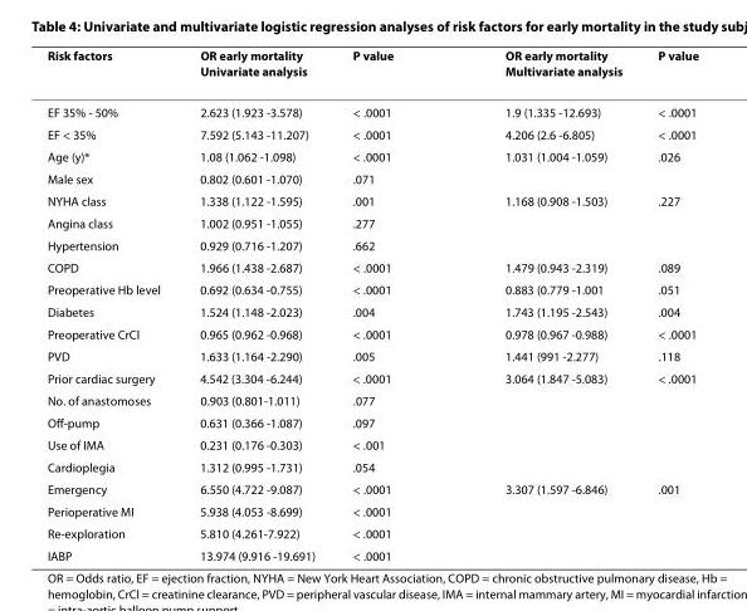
<table><thead><tr><td>Risk factors</td><td>OR early mortality Univariate analysis</td><td>P value</td><td>OR early mortality Multivariate analysis</td><td>P value</td></tr></thead><tbody><tr><td>EF 35% - 50%</td><td>2.623 (1.923 -3.578)</td><td>&lt; .0001</td><td>1.9 (1.335 -12.693)</td><td>&lt; .0001</td></tr><tr><td>EF &lt; 35%</td><td>7.592 (5.143 -11.207)</td><td>&lt; .0001</td><td>4.206 (2.6 -6.805)</td><td>&lt; .0001</td></tr><tr><td>Age (y)*</td><td>1.08 (1.062 -1.098)</td><td>&lt; .0001</td><td>1.031 (1.004 -1.059)</td><td>.026</td></tr><tr><td>Male sex</td><td>0.802 (0.601 -1.070)</td><td>.071</td><td></td><td></td></tr><tr><td>NYHA class</td><td>1.338 (1.122 -1.595)</td><td>.001</td><td>1.168 (0.908 -1.503)</td><td>.227</td></tr><tr><td>Angina class</td><td>1.002 (0.951 -1.055)</td><td>.277</td><td></td><td></td></tr><tr><td>Hypertension</td><td>0.929 (0.716 -1.207)</td><td>.662</td><td></td><td></td></tr><tr><td>COPD</td><td>1.966 (1.438 -2.687)</td><td>&lt; .0001</td><td>1.479 (0.943 -2.319)</td><td>.089</td></tr><tr><td>Preoperative Hb level</td><td>0.692 (0.634 -0.755)</td><td>&lt; .0001</td><td>0.883 (0.779 -1.001</td><td>.051</td></tr><tr><td>Diabetes</td><td>1.524 (1.148 -2.023)</td><td>.004</td><td>1.743 (1.195 -2.543)</td><td>.004</td></tr><tr><td>Preoperative CrCl</td><td>0.965 (0.962 -0.968)</td><td>&lt; .0001</td><td>0.978 (0.967 -0.988)</td><td>&lt; .0001</td></tr><tr><td>PVD</td><td>1.633 (1.164 -2.290)</td><td>.005</td><td>1.441 (991 -2.277)</td><td>.118</td></tr><tr><td>Prior cardiac surgery</td><td>4.542 (3.304 -6.244)</td><td>&lt; .0001</td><td>3.064 (1.847 -5.083)</td><td>&lt; .0001</td></tr><tr><td>No. of anastomoses</td><td>0.903 (0.801-1.011)</td><td>.077</td><td></td><td></td></tr><tr><td>Off-pump</td><td>0.631 (0.366 -1.087)</td><td>.097</td><td></td><td></td></tr><tr><td>Use of IMA</td><td>0.231 (0.176 -0.303)</td><td>&lt; .001</td><td></td><td></td></tr><tr><td>Cardioplegia</td><td>1.312 (0.995 -1.731)</td><td>.054</td><td></td><td></td></tr><tr><td>Emergency</td><td>6.550 (4.722 -9.087)</td><td>&lt; .0001</td><td>3.307 (1.597 -6.846)</td><td>.001</td></tr><tr><td>Perioperative MI</td><td>5.938 (4.053 -8.699)</td><td>&lt; .0001</td><td></td><td></td></tr><tr><td>Re-exploration</td><td>5.810 (4.261-7.922)</td><td>&lt; .0001</td><td></td><td></td></tr><tr><td>IABP</td><td>13.974 (9.916 -19.691)</td><td>&lt; .0001</td><td></td><td></td></tr></tbody></table>